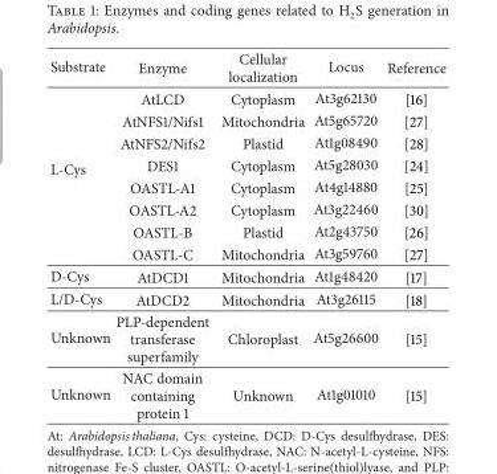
<table><thead><tr><td>Substrate</td><td>Enzyme</td><td>Cellular localization</td><td>Locus</td><td>Reference</td></tr></thead><tbody><tr><td rowspan="8">L-Cys</td><td>AtLCD</td><td>Cytoplasm</td><td>At3g62130</td><td>[16]</td></tr><tr><td>AtNFS1/Nifs1</td><td>Mitochondria</td><td>At5g65720</td><td>[27]</td></tr><tr><td>AtNFS2/Nifs2</td><td>Plastid</td><td>At1g08490</td><td>[28]</td></tr><tr><td>DES1</td><td>Cytoplasm</td><td>At5g28030</td><td>[24]</td></tr><tr><td>OASTL-A1</td><td>Cytoplasm</td><td>At4g14880</td><td>[25]</td></tr><tr><td>OASTL-A2</td><td>Cytoplasm</td><td>At3g22460</td><td>[30]</td></tr><tr><td>OASTL-B</td><td>Plastid</td><td>At2g43750</td><td>[26]</td></tr><tr><td>OASTL-C</td><td>Mitochondria</td><td>At3g59760</td><td>[27]</td></tr><tr><td>D-Cys</td><td>AtDCD1</td><td>Mitochondria</td><td>At1g48420</td><td>[17]</td></tr><tr><td>L/D-Cys</td><td>AtDCD2</td><td>Mitochondria</td><td>At3g26115</td><td>[18]</td></tr><tr><td>Unknown</td><td>PLP-dependent transferase superfamily</td><td>Chloroplast</td><td>At5g26600</td><td>[15]</td></tr><tr><td>Unknown</td><td>NAC domain containing protein 1</td><td>Unknown</td><td>At1g01010</td><td>[15]</td></tr></tbody></table>